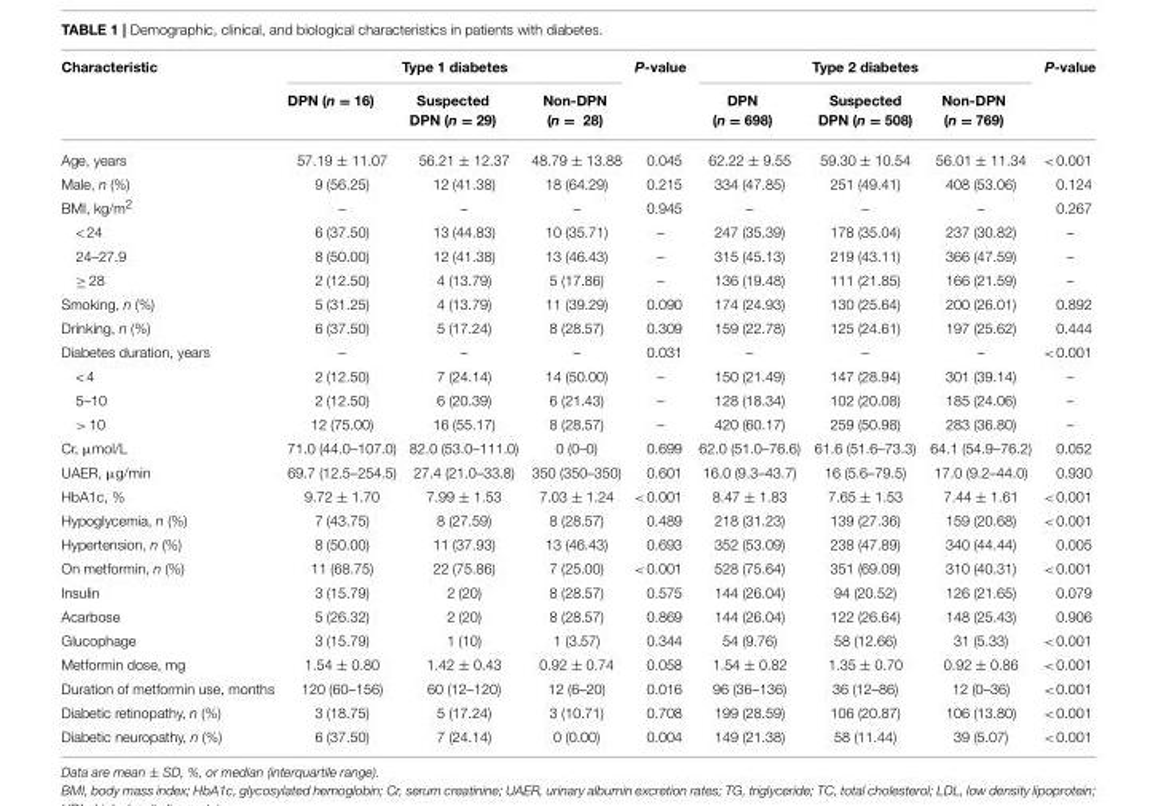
<table><thead><tr><td rowspan="2">Characteristic</td><td colspan="3">Type 1 diabetes</td><td rowspan="2">P-value</td><td colspan="3">Type 2 diabetes</td><td rowspan="2">P-value</td></tr><tr><td>DPN (n = 16)</td><td>Suspected DPN (n = 29)</td><td>Non-DPN (n = 28)</td><td>DPN (n = 698)</td><td>Suspected DPN (n = 508)</td><td>Non-DPN (n = 769)</td></tr></thead><tbody><tr><td>Age, years</td><td>57.19 ± 11.07</td><td>56.21 ± 12.37</td><td>48.79 ± 13.88</td><td>0.045</td><td>62.22 ± 9.55</td><td>59.30 ± 10.54</td><td>56.01 ± 11.34</td><td>&lt;0.001</td></tr><tr><td>Male, n (%)</td><td>9 (56.25)</td><td>12 (41.38)</td><td>18 (64.29)</td><td>0.215</td><td>334 (47.85)</td><td>251 (49.41)</td><td>408 (53.06)</td><td>0.124</td></tr><tr><td>BMI, kg/m<sup>2</sup></td><td>–</td><td>–</td><td>–</td><td>0.945</td><td>–</td><td>–</td><td>–</td><td>0.267</td></tr><tr><td>&lt; 24</td><td>6 (37.50)</td><td>13 (44.83)</td><td>10 (35.71)</td><td>–</td><td>247 (35.39)</td><td>178 (35.04)</td><td>237 (30.82)</td><td>–</td></tr><tr><td>24–27.9</td><td>8 (50.00)</td><td>12 (41.38)</td><td>13 (46.43)</td><td>–</td><td>315 (45.13)</td><td>219 (43.11)</td><td>366 (47.59)</td><td>–</td></tr><tr><td>≥ 28</td><td>2 (12.50)</td><td>4 (13.79)</td><td>5 (17.86)</td><td>–</td><td>136 (19.48)</td><td>111 (21.85)</td><td>166 (21.59)</td><td>–</td></tr><tr><td>Smoking, n (%)</td><td>5 (31.25)</td><td>4 (13.79)</td><td>11 (39.29)</td><td>0.090</td><td>174 (24.93)</td><td>130 (25.64)</td><td>200 (26.01)</td><td>0.892</td></tr><tr><td>Drinking, n (%)</td><td>6 (37.50)</td><td>5 (17.24)</td><td>8 (28.57)</td><td>0.309</td><td>159 (22.78)</td><td>125 (24.61)</td><td>197 (25.62)</td><td>0.444</td></tr><tr><td>Diabetes duration, years</td><td>–</td><td>–</td><td>–</td><td>0.031</td><td>–</td><td>–</td><td>–</td><td>&lt;0.001</td></tr><tr><td>&lt; 4</td><td>2 (12.50)</td><td>7 (24.14)</td><td>14 (50.00)</td><td>–</td><td>150 (21.49)</td><td>147 (28.94)</td><td>301 (39.14)</td><td>–</td></tr><tr><td>5–10</td><td>2 (12.50)</td><td>6 (20.39)</td><td>6 (21.43)</td><td>–</td><td>128 (18.34)</td><td>102 (20.08)</td><td>185 (24.06)</td><td>–</td></tr><tr><td>&gt; 10</td><td>12 (75.00)</td><td>16 (55.17)</td><td>8 (28.57)</td><td>–</td><td>420 (60.17)</td><td>259 (50.98)</td><td>283 (36.80)</td><td>–</td></tr><tr><td>Cr, µmol/L</td><td>71.0 (44.0–107.0)</td><td>82.0 (53.0–111.0)</td><td>0 (0–0)</td><td>0.699</td><td>62.0 (51.0–76.6)</td><td>61.6 (51.6–73.3)</td><td>64.1 (54.9–76.2)</td><td>0.052</td></tr><tr><td>UAER, µg/min</td><td>69.7 (12.5–254.5)</td><td>27.4 (21.0–33.8)</td><td>350 (350–350)</td><td>0.601</td><td>16.0 (9.3–43.7)</td><td>16 (5.6–79.5)</td><td>17.0 (9.2–44.0)</td><td>0.930</td></tr><tr><td>HbA1c, %</td><td>9.72 ± 1.70</td><td>7.99 ± 1.53</td><td>7.03 ± 1.24</td><td>&lt;0.001</td><td>8.47 ± 1.83</td><td>7.65 ± 1.53</td><td>7.44 ± 1.61</td><td>&lt;0.001</td></tr><tr><td>Hypoglycemia, n (%)</td><td>7 (43.75)</td><td>8 (27.59)</td><td>8 (28.57)</td><td>0.489</td><td>218 (31.23)</td><td>139 (27.36)</td><td>159 (20.68)</td><td>&lt;0.001</td></tr><tr><td>Hypertension, n (%)</td><td>8 (50.00)</td><td>11 (37.93)</td><td>13 (46.43)</td><td>0.693</td><td>352 (53.09)</td><td>238 (47.89)</td><td>340 (44.44)</td><td>0.005</td></tr><tr><td>On metformin, n (%)</td><td>11 (68.75)</td><td>22 (75.86)</td><td>7 (25.00)</td><td>&lt;0.001</td><td>528 (75.64)</td><td>351 (69.09)</td><td>310 (40.31)</td><td>&lt;0.001</td></tr><tr><td>Insulin</td><td>3 (15.79)</td><td>2 (20)</td><td>8 (28.57)</td><td>0.575</td><td>144 (26.04)</td><td>94 (20.52)</td><td>126 (21.65)</td><td>0.079</td></tr><tr><td>Acarbose</td><td>5 (26.32)</td><td>2 (20)</td><td>8 (28.57)</td><td>0.869</td><td>144 (26.04)</td><td>122 (26.64)</td><td>148 (25.43)</td><td>0.906</td></tr><tr><td>Glucophage</td><td>3 (15.79)</td><td>1 (10)</td><td>1 (3.57)</td><td>0.344</td><td>54 (9.76)</td><td>58 (12.66)</td><td>31 (5.33)</td><td>&lt;0.001</td></tr><tr><td>Metformin dose, mg</td><td>1.54 ± 0.80</td><td>1.42 ± 0.43</td><td>0.92 ± 0.74</td><td>0.058</td><td>1.54 ± 0.82</td><td>1.35 ± 0.70</td><td>0.92 ± 0.86</td><td>&lt;0.001</td></tr><tr><td>Duration of metformin use, months</td><td>120 (60–156)</td><td>60 (12–120)</td><td>12 (6–20)</td><td>0.016</td><td>96 (36–136)</td><td>36 (12–86)</td><td>12 (0–36)</td><td>&lt;0.001</td></tr><tr><td>Diabetic retinopathy, n (%)</td><td>3 (18.75)</td><td>5 (17.24)</td><td>3 (10.71)</td><td>0.708</td><td>199 (28.59)</td><td>106 (20.87)</td><td>106 (13.80)</td><td>&lt;0.001</td></tr><tr><td>Diabetic neuropathy, n (%)</td><td>6 (37.50)</td><td>7 (24.14)</td><td>0 (0.00)</td><td>0.004</td><td>149 (21.38)</td><td>58 (11.44)</td><td>39 (5.07)</td><td>&lt;0.001</td></tr></tbody></table>